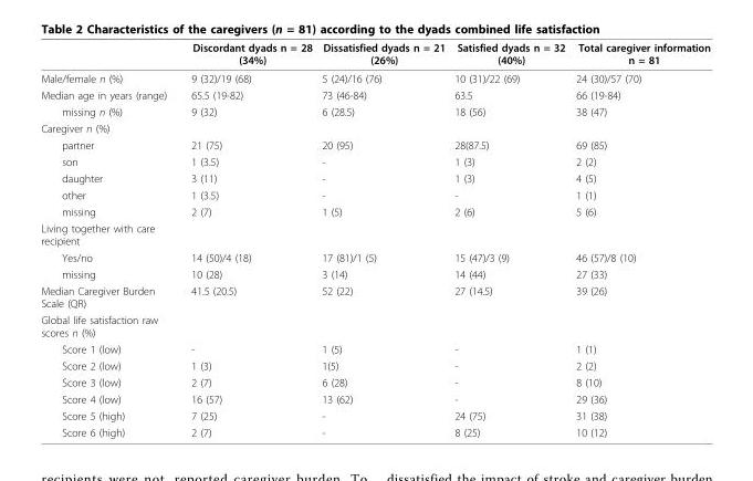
<table><thead><tr><td></td><td>Discordant dyads n = 28 (34%)</td><td>Dissatisfied dyads n = 21 (26%)</td><td>Satisfied dyads n = 32 (40%)</td><td>Total caregiver information n = 81</td></tr></thead><tbody><tr><td>Male/female n (%)</td><td>9 (32)/19 (68)</td><td>5 (24)/16 (76)</td><td>10 (31)/22 (69)</td><td>24 (30)/57 (70)</td></tr><tr><td>Median age in years (range)</td><td>65.5 (19-82)</td><td>73 (46-84)</td><td>63.5</td><td>66 (19-84)</td></tr><tr><td>missing n (%)</td><td>9 (32)</td><td>6 (28.5)</td><td>18 (56)</td><td>38 (47)</td></tr><tr><td colspan="5">Caregiver n (%)</td></tr><tr><td>partner</td><td>21 (75)</td><td>20 (95)</td><td>28(87.5)</td><td>69 (85)</td></tr><tr><td>son</td><td>1 (3.5)</td><td>-</td><td>1 (3)</td><td>2 (2)</td></tr><tr><td>daughter</td><td>3 (11)</td><td>-</td><td>1 (3)</td><td>4 (5)</td></tr><tr><td>other</td><td>1 (3.5)</td><td>-</td><td>-</td><td>1 (1)</td></tr><tr><td>missing</td><td>2 (7)</td><td>1 (5)</td><td>2 (6)</td><td>5 (6)</td></tr><tr><td colspan="5">Living together with care recipient</td></tr><tr><td>Yes/no</td><td>14 (50)/4 (18)</td><td>17 (81)/1 (5)</td><td>15 (47)/3 (9)</td><td>46 (57)/8 (10)</td></tr><tr><td>missing</td><td>10 (28)</td><td>3 (14)</td><td>14 (44)</td><td>27 (33)</td></tr><tr><td>Median Caregiver Burden Scale (QR)</td><td>41.5 (20.5)</td><td>52 (22)</td><td>27 (14.5)</td><td>39 (26)</td></tr><tr><td colspan="5">Global life satisfaction raw scores n (%)</td></tr><tr><td>Score 1 (low)</td><td>-</td><td>1 (5)</td><td>-</td><td>1 (1)</td></tr><tr><td>Score 2 (low)</td><td>1 (3)</td><td>1(5)</td><td>-</td><td>2 (2)</td></tr><tr><td>Score 3 (low)</td><td>2 (7)</td><td>6 (28)</td><td>-</td><td>8 (10)</td></tr><tr><td>Score 4 (low)</td><td>16 (57)</td><td>13 (62)</td><td>-</td><td>29 (36)</td></tr><tr><td>Score 5 (high)</td><td>7 (25)</td><td>-</td><td>24 (75)</td><td>31 (38)</td></tr><tr><td>Score 6 (high)</td><td>2 (7)</td><td>-</td><td>8 (25)</td><td>10 (12)</td></tr></tbody></table>